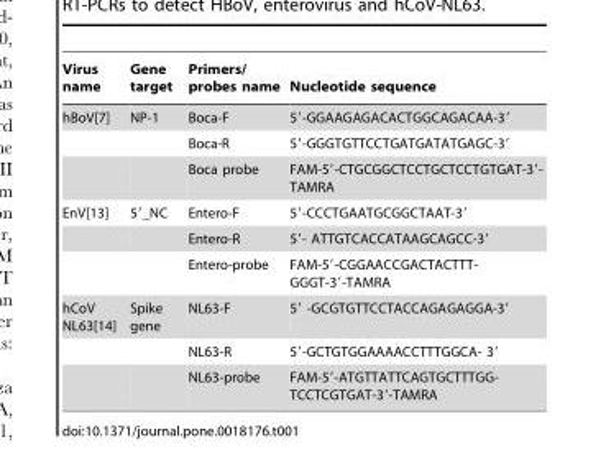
<table><thead><tr><td>Virus name</td><td>Gene target</td><td>Primers/ probes name</td><td>Nucleotide sequence</td></tr></thead><tbody><tr><td rowspan="3">hBoV[7]</td><td>NP-1</td><td>Boca-F</td><td>5′-GGAAGAGACACTGGCAGACAA-3′</td></tr><tr><td></td><td>Boca-R</td><td>5′-GGGTGTTCCTGATGATATGAGC-3′</td></tr><tr><td></td><td>Boca probe</td><td>FAM-5′-CTGCGGCTCCTGCTCCTGTGAT-3′- TAMRA</td></tr><tr><td rowspan="3">EnV[13]</td><td>5′_NC</td><td>Entero-F</td><td>5′-CCCTGAATGCGGCTAAT-3′</td></tr><tr><td></td><td>Entero-R</td><td>5′- ATTGTCACCATAAGCAGCC-3′</td></tr><tr><td></td><td>Entero-probe</td><td>FAM-59-CGGAACCGACTACTTT- GGGT-39-TAMRA</td></tr><tr><td rowspan="3">hCoV NL63[14]</td><td>Spike gene</td><td>NL63-F</td><td>5′ -GCGTGTTCCTACCAGAGAGGA-3′</td></tr><tr><td></td><td>NL63-R</td><td>5′-GCTGTGGAAAACCTTTGGCA- 3′</td></tr><tr><td></td><td>NL63-probe</td><td>FAM-59-ATGTTATTCAGTGCTTTGG- TCCTCGTGAT-39-TAMRA</td></tr></tbody></table>